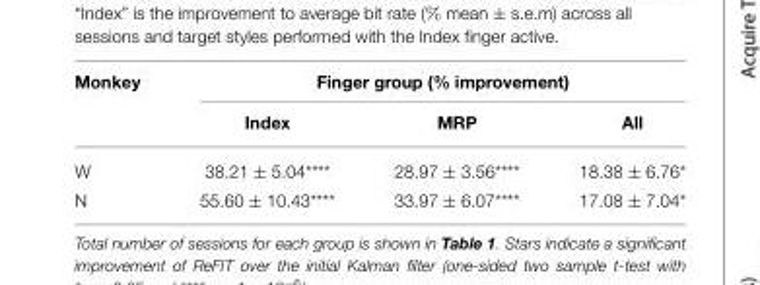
<table><thead><tr><td rowspan="2">Monkey</td><td colspan="3">Finger group (% improvement)</td></tr><tr><td>Index</td><td>MRP</td><td>All</td></tr></thead><tbody><tr><td>W</td><td>38.21 ± 5.04****</td><td>28.97 ± 3.56****</td><td>18.38 ± 6.76*</td></tr><tr><td>N</td><td>55.60 ± 10.43****</td><td>33.97 ± 6.07****</td><td>17.08 ± 7.04*</td></tr></tbody></table>